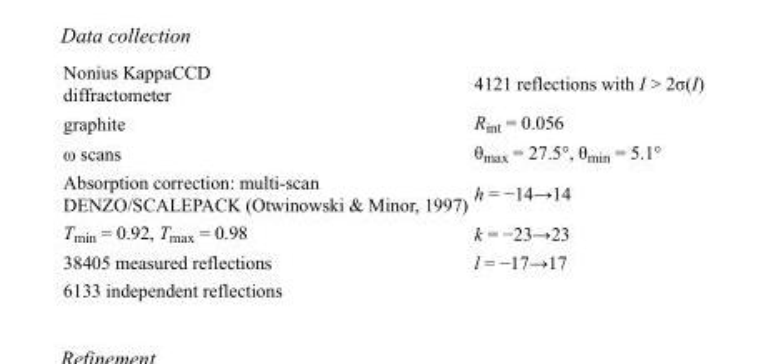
<table><tbody><tr><td>Nonius KappaCCD diffractometer</td><td>4121 reflections with I &gt; 2σ(I)</td></tr><tr><td>graphite</td><td>R<sub>int</sub> = 0.056</td></tr><tr><td>ω scans</td><td>θ<sub>max</sub> = 27.5°, θ<sub>min</sub> = 5.1°</td></tr><tr><td>Absorption correction: multi-scan DENZO/SCALEPACK (Otwinowski &amp; Minor, 1997)</td><td>h = −14→14</td></tr><tr><td>T<sub>min</sub> = 0.92, T<sub>max</sub> = 0.98</td><td>k = −23→23</td></tr><tr><td>38405 measured reflections</td><td>l = −17→17</td></tr><tr><td>6133 independent reflections</td><td></td></tr></tbody></table>